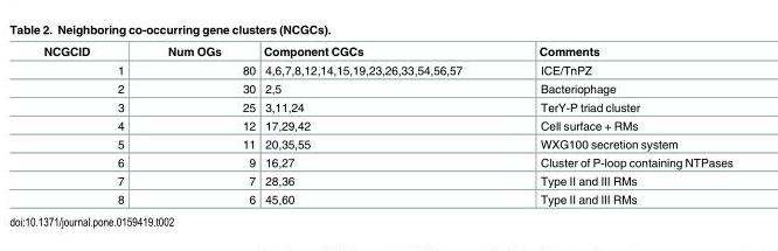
<table><thead><tr><td>NCGCID</td><td>Num OGs</td><td>Component CGCs</td><td>Comments</td></tr></thead><tbody><tr><td>1</td><td>80</td><td>4,6,7,8,12,14,15,19,23,26,33,54,56,57</td><td>ICE/TnPZ</td></tr><tr><td>2</td><td>30</td><td>2,5</td><td>Bacteriophage</td></tr><tr><td>3</td><td>25</td><td>3,11,24</td><td>TerY-P triad cluster</td></tr><tr><td>4</td><td>12</td><td>17,29,42</td><td>Cell surface + RMs</td></tr><tr><td>5</td><td>11</td><td>20,35,55</td><td>WXG100 secretion system</td></tr><tr><td>6</td><td>9</td><td>16,27</td><td>Cluster of P-loop containing NTPases</td></tr><tr><td>7</td><td>7</td><td>28,36</td><td>Type II and III RMs</td></tr><tr><td>8</td><td>6</td><td>45,60</td><td>Type II and III RMs</td></tr></tbody></table>